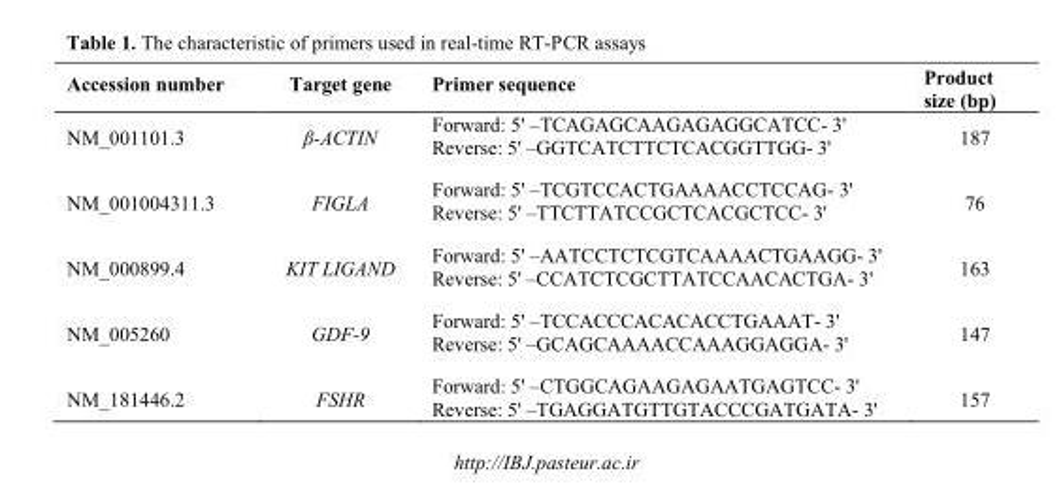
<table><thead><tr><td>Accession number</td><td>Target gene</td><td>Primer sequence</td><td>Product size (bp)</td></tr></thead><tbody><tr><td>NM_001101.3</td><td>β-ACTIN</td><td>Forward: 5&#x27; –TCAGAGCAAGAGAGGCATCC- 3&#x27; Reverse: 5&#x27; –GGTCATCTTCTCACGGTTGG- 3&#x27;</td><td>187</td></tr><tr><td>NM_001004311.3</td><td>FIGLA</td><td>Forward: 5&#x27; –TCGTCCACTGAAAACCTCCAG- 3&#x27; Reverse: 5&#x27; –TTCTTATCCGCTCACGCTCC- 3&#x27;</td><td>76</td></tr><tr><td>NM_000899.4</td><td>KIT LIGAND</td><td>Forward: 5&#x27; –AATCCTCTCGTCAAAACTGAAGG- 3&#x27; Reverse: 5&#x27; –CCATCTCGCTTATCCAACACTGA- 3&#x27;</td><td>163</td></tr><tr><td>NM_005260</td><td>GDF-9</td><td>Forward: 5&#x27; –TCCACCCACACACCTGAAAT- 3&#x27; Reverse: 5&#x27; –GCAGCAAAACCAAAGGAGGA- 3&#x27;</td><td>147</td></tr><tr><td>NM_181446.2</td><td>FSHR</td><td>Forward: 5&#x27; –CTGGCAGAAGAGAATGAGTCC- 3&#x27; Reverse: 5&#x27; –TGAGGATGTTGTACCCGATGATA- 3&#x27;</td><td>157</td></tr></tbody></table>